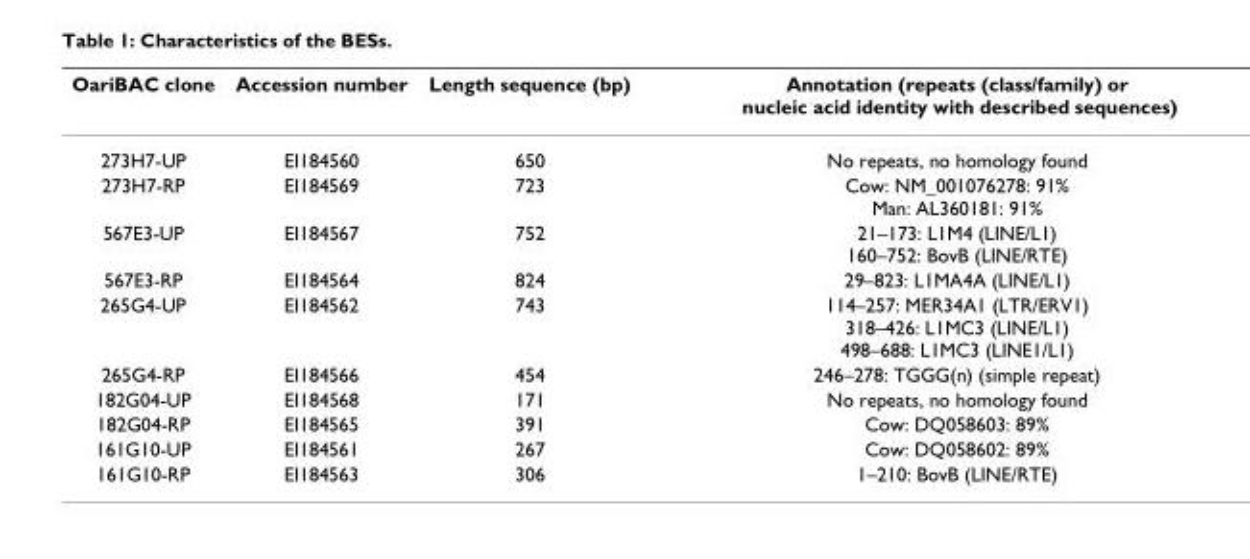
<table><thead><tr><td>OariBAC clone</td><td>Accession number</td><td>Length sequence (bp)</td><td>Annotation (repeats (class/family) or nucleic acid identity with described sequences)</td></tr></thead><tbody><tr><td>273H7-UP</td><td>EI184560</td><td>650</td><td>No repeats, no homology found</td></tr><tr><td>273H7-RP</td><td>EI184569</td><td>723</td><td>Cow: NM_001076278: 91% Man: AL360181: 91%</td></tr><tr><td>567E3-UP</td><td>EI184567</td><td>752</td><td>21–173: L1M4 (LINE/L1) 160–752: BovB (LINE/RTE)</td></tr><tr><td>567E3-RP</td><td>EI184564</td><td>824</td><td>29–823: L1MA4A (LINE/L1)</td></tr><tr><td>265G4-UP</td><td>EI184562</td><td>743</td><td>114–257: MER34A1 (LTR/ERV1) 318–426: L1MC3 (LINE/L1) 498–688: L1MC3 (LINE1/L1)</td></tr><tr><td>265G4-RP</td><td>EI184566</td><td>454</td><td>246–278: TGGG(n) (simple repeat)</td></tr><tr><td>182G04-UP</td><td>EI184568</td><td>171</td><td>No repeats, no homology found</td></tr><tr><td>182G04-RP</td><td>EI184565</td><td>391</td><td>Cow: DQ058603: 89%</td></tr><tr><td>161G10-UP</td><td>EI184561</td><td>267</td><td>Cow: DQ058602: 89%</td></tr><tr><td>161G10-RP</td><td>EI184563</td><td>306</td><td>1–210: BovB (LINE/RTE)</td></tr></tbody></table>